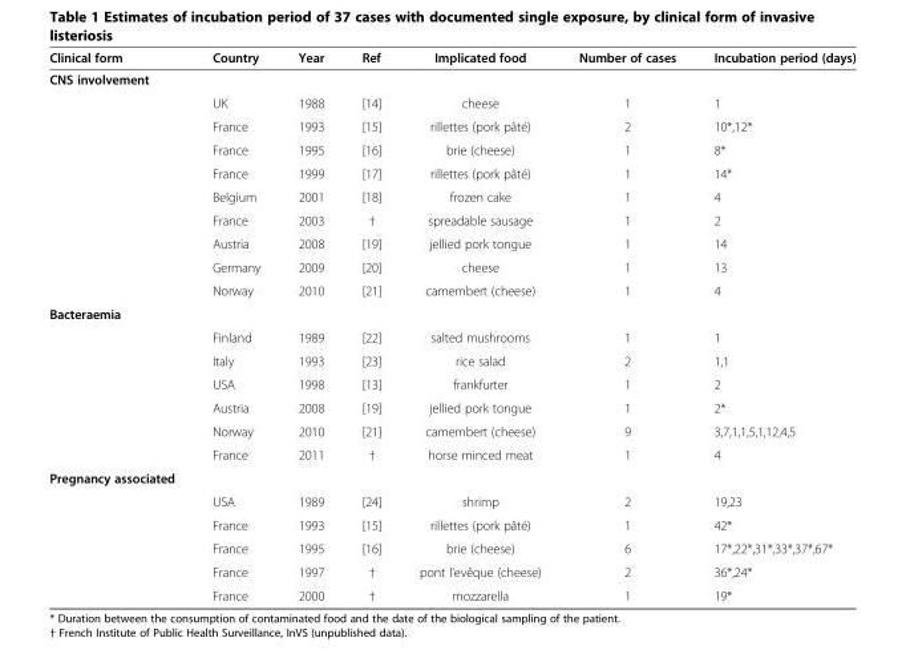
<table><thead><tr><td>Clinical form</td><td>Country</td><td>Year</td><td>Ref</td><td>Implicated food</td><td>Number of cases</td><td>Incubation period (days)</td></tr></thead><tbody><tr><td colspan="7">CNS involvement</td></tr><tr><td></td><td>UK</td><td>1988</td><td>[14]</td><td>cheese</td><td>1</td><td>1</td></tr><tr><td></td><td>France</td><td>1993</td><td>[15]</td><td>rillettes (pork pâté)</td><td>2</td><td>10*,12*</td></tr><tr><td></td><td>France</td><td>1995</td><td>[16]</td><td>brie (cheese)</td><td>1</td><td>8*</td></tr><tr><td></td><td>France</td><td>1999</td><td>[17]</td><td>rillettes (pork pâté)</td><td>1</td><td>14*</td></tr><tr><td></td><td>Belgium</td><td>2001</td><td>[18]</td><td>frozen cake</td><td>1</td><td>4</td></tr><tr><td></td><td>France</td><td>2003</td><td>†</td><td>spreadable sausage</td><td>1</td><td>2</td></tr><tr><td></td><td>Austria</td><td>2008</td><td>[19]</td><td>jellied pork tongue</td><td>1</td><td>14</td></tr><tr><td></td><td>Germany</td><td>2009</td><td>[20]</td><td>cheese</td><td>1</td><td>13</td></tr><tr><td></td><td>Norway</td><td>2010</td><td>[21]</td><td>camembert (cheese)</td><td>1</td><td>4</td></tr><tr><td colspan="7">Bacteraemia</td></tr><tr><td></td><td>Finland</td><td>1989</td><td>[22]</td><td>salted mushrooms</td><td>1</td><td>1</td></tr><tr><td></td><td>Italy</td><td>1993</td><td>[23]</td><td>rice salad</td><td>2</td><td>1,1</td></tr><tr><td></td><td>USA</td><td>1998</td><td>[13]</td><td>frankfurter</td><td>1</td><td>2</td></tr><tr><td></td><td>Austria</td><td>2008</td><td>[19]</td><td>jellied pork tongue</td><td>1</td><td>2*</td></tr><tr><td></td><td>Norway</td><td>2010</td><td>[21]</td><td>camembert (cheese)</td><td>9</td><td>3,7,1,1,5,1,12,4,5</td></tr><tr><td></td><td>France</td><td>2011</td><td>†</td><td>horse minced meat</td><td>1</td><td>4</td></tr><tr><td colspan="7">Pregnancy associated</td></tr><tr><td></td><td>USA</td><td>1989</td><td>[24]</td><td>shrimp</td><td>2</td><td>19,23</td></tr><tr><td></td><td>France</td><td>1993</td><td>[15]</td><td>rillettes (pork pâté)</td><td>1</td><td>42*</td></tr><tr><td></td><td>France</td><td>1995</td><td>[16]</td><td>brie (cheese)</td><td>6</td><td>17*,22*,31*,33*,37*,67*</td></tr><tr><td></td><td>France</td><td>1997</td><td>†</td><td>pont l’evêque (cheese)</td><td>2</td><td>36*,24*</td></tr><tr><td></td><td>France</td><td>2000</td><td>†</td><td>mozzarella</td><td>1</td><td>19*</td></tr></tbody></table>